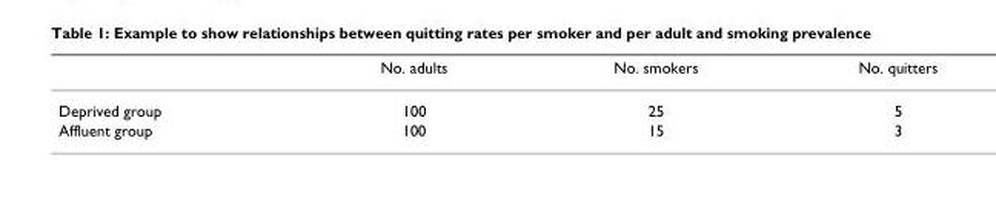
<table><thead><tr><td></td><td>No. adults</td><td>No. smokers</td><td>No. quitters</td></tr></thead><tbody><tr><td>Deprived group</td><td>100</td><td>25</td><td>5</td></tr><tr><td>Affluent group</td><td>100</td><td>15</td><td>3</td></tr></tbody></table>